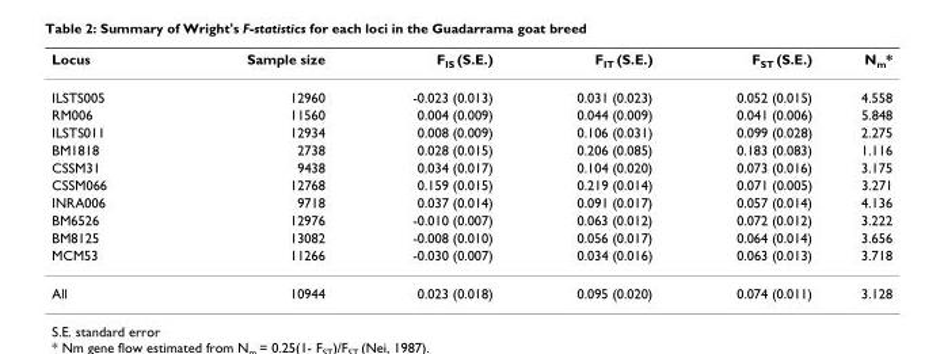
<table><thead><tr><td>Locus</td><td>Sample size</td><td>F<sub>IS</sub> (S.E.)</td><td>F<sub>IT</sub> (S.E.)</td><td>F<sub>ST</sub> (S.E.)</td><td>N<sub>m</sub>*</td></tr></thead><tbody><tr><td>ILSTS005</td><td>12960</td><td>-0.023 (0.013)</td><td>0.031 (0.023)</td><td>0.052 (0.015)</td><td>4.558</td></tr><tr><td>RM006</td><td>11560</td><td>0.004 (0.009)</td><td>0.044 (0.009)</td><td>0.041 (0.006)</td><td>5.848</td></tr><tr><td>ILSTS011</td><td>12934</td><td>0.008 (0.009)</td><td>0.106 (0.031)</td><td>0.099 (0.028)</td><td>2.275</td></tr><tr><td>BM1818</td><td>2738</td><td>0.028 (0.015)</td><td>0.206 (0.085)</td><td>0.183 (0.083)</td><td>1.116</td></tr><tr><td>CSSM31</td><td>9438</td><td>0.034 (0.017)</td><td>0.104 (0.020)</td><td>0.073 (0.016)</td><td>3.175</td></tr><tr><td>CSSM066</td><td>12768</td><td>0.159 (0.015)</td><td>0.219 (0.014)</td><td>0.071 (0.005)</td><td>3.271</td></tr><tr><td>INRA006</td><td>9718</td><td>0.037 (0.014)</td><td>0.091 (0.017)</td><td>0.057 (0.014)</td><td>4.136</td></tr><tr><td>BM6526</td><td>12976</td><td>-0.010 (0.007)</td><td>0.063 (0.012)</td><td>0.072 (0.012)</td><td>3.222</td></tr><tr><td>BM8125</td><td>13082</td><td>-0.008 (0.010)</td><td>0.056 (0.017)</td><td>0.064 (0.014)</td><td>3.656</td></tr><tr><td>MCM53</td><td>11266</td><td>-0.030 (0.007)</td><td>0.034 (0.016)</td><td>0.063 (0.013)</td><td>3.718</td></tr><tr><td>All</td><td>10944</td><td>0.023 (0.018)</td><td>0.095 (0.020)</td><td>0.074 (0.011)</td><td>3.128</td></tr></tbody></table>